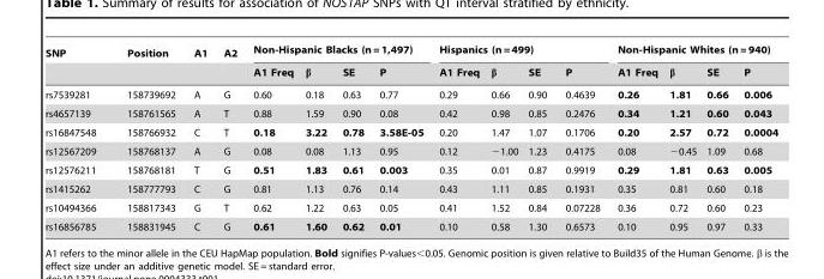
<table><thead><tr><td rowspan="2">SNP</td><td rowspan="2">Position</td><td rowspan="2">A1</td><td rowspan="2">A2</td><td colspan="4">Non-Hispanic Blacks (n = 1,497)</td><td colspan="4">Hispanics (n = 499)</td><td colspan="4">Non-Hispanic Whites (n = 940)</td></tr><tr><td>A1 Freq</td><td>β</td><td>SE</td><td>P</td><td>A1 Freq</td><td>β</td><td>SE</td><td>P</td><td>A1 Freq</td><td>β</td><td>SE</td><td>P</td></tr></thead><tbody><tr><td>rs7539281</td><td>158739692</td><td>A</td><td>G</td><td>0.60</td><td>0.18</td><td>0.63</td><td>0.77</td><td>0.29</td><td>0.66</td><td>0.90</td><td>0.4639</td><td>0.26</td><td>1.81</td><td>0.66</td><td>0.006</td></tr><tr><td>rs4657139</td><td>158761565</td><td>A</td><td>T</td><td>0.88</td><td>1.59</td><td>0.90</td><td>0.08</td><td>0.42</td><td>0.98</td><td>0.85</td><td>0.2476</td><td>0.34</td><td>1.21</td><td>0.60</td><td>0.043</td></tr><tr><td>rs16847548</td><td>158766932</td><td>C</td><td>T</td><td>0.18</td><td>3.22</td><td>0.78</td><td>3.58E-05</td><td>0.20</td><td>1.47</td><td>1.07</td><td>0.1706</td><td>0.20</td><td>2.57</td><td>0.72</td><td>0.0004</td></tr><tr><td>rs12567209</td><td>158768137</td><td>A</td><td>G</td><td>0.08</td><td>0.08</td><td>1.13</td><td>0.95</td><td>0.12</td><td>−1.00</td><td>1.23</td><td>0.4175</td><td>0.08</td><td>−0.45</td><td>1.09</td><td>0.68</td></tr><tr><td>rs12576211</td><td>158768181</td><td>T</td><td>G</td><td>0.51</td><td>1.83</td><td>0.61</td><td>0.003</td><td>0.35</td><td>0.01</td><td>0.87</td><td>0.9919</td><td>0.29</td><td>1.81</td><td>0.63</td><td>0.005</td></tr><tr><td>rs1415262</td><td>158777793</td><td>C</td><td>G</td><td>0.81</td><td>1.13</td><td>0.76</td><td>0.14</td><td>0.43</td><td>1.11</td><td>0.85</td><td>0.1931</td><td>0.35</td><td>0.81</td><td>0.60</td><td>0.18</td></tr><tr><td>rs10494366</td><td>158817343</td><td>G</td><td>T</td><td>0.62</td><td>1.22</td><td>0.63</td><td>0.05</td><td>0.41</td><td>1.52</td><td>0.84</td><td>0.07228</td><td>0.36</td><td>0.72</td><td>0.60</td><td>0.23</td></tr><tr><td>rs16856785</td><td>158831945</td><td>C</td><td>G</td><td>0.61</td><td>1.60</td><td>0.62</td><td>0.01</td><td>0.10</td><td>0.58</td><td>1.30</td><td>0.6573</td><td>0.10</td><td>0.95</td><td>0.97</td><td>0.33</td></tr></tbody></table>